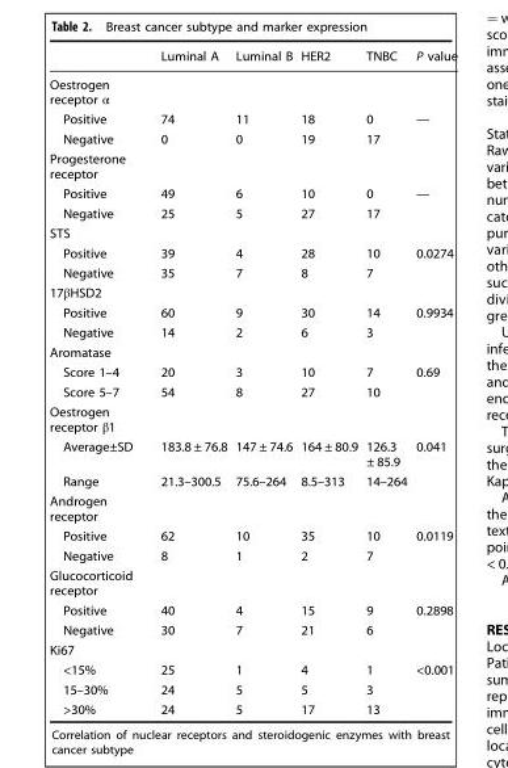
<table><thead><tr><td></td><td>Luminal A</td><td>Luminal B</td><td>HER2</td><td>TNBC</td><td>P value</td></tr></thead><tbody><tr><td colspan="6">Oestrogen receptor α</td></tr><tr><td>Positive</td><td>74</td><td>11</td><td>18</td><td>0</td><td>—</td></tr><tr><td>Negative</td><td>0</td><td>0</td><td>19</td><td>17</td><td></td></tr><tr><td colspan="6">Progesterone receptor</td></tr><tr><td>Positive</td><td>49</td><td>6</td><td>10</td><td>0</td><td>—</td></tr><tr><td>Negative</td><td>25</td><td>5</td><td>27</td><td>17</td><td></td></tr><tr><td colspan="6">STS</td></tr><tr><td>Positive</td><td>39</td><td>4</td><td>28</td><td>10</td><td>0.0274</td></tr><tr><td>Negative</td><td>35</td><td>7</td><td>8</td><td>7</td><td></td></tr><tr><td colspan="6">17βHSD2</td></tr><tr><td>Positive</td><td>60</td><td>9</td><td>30</td><td>14</td><td>0.9934</td></tr><tr><td>Negative</td><td>14</td><td>2</td><td>6</td><td>3</td><td></td></tr><tr><td colspan="6">Aromatase</td></tr><tr><td>Score 1–4</td><td>20</td><td>3</td><td>10</td><td>7</td><td>0.69</td></tr><tr><td>Score 5–7</td><td>54</td><td>8</td><td>27</td><td>10</td><td></td></tr><tr><td colspan="6">Oestrogen receptor β1</td></tr><tr><td>Average±SD</td><td>183.8 ± 76.8</td><td>147 ± 74.6</td><td>164 ± 80.9</td><td>126.3 ± 85.9</td><td>0.041</td></tr><tr><td>Range</td><td>21.3–300.5</td><td>75.6–264</td><td>8.5–313</td><td>14–264</td><td></td></tr><tr><td colspan="6">Androgen receptor</td></tr><tr><td>Positive</td><td>62</td><td>10</td><td>35</td><td>10</td><td>0.0119</td></tr><tr><td>Negative</td><td>8</td><td>1</td><td>2</td><td>7</td><td></td></tr><tr><td colspan="6">Glucocorticoid receptor</td></tr><tr><td>Positive</td><td>40</td><td>4</td><td>15</td><td>9</td><td>0.2898</td></tr><tr><td>Negative</td><td>30</td><td>7</td><td>21</td><td>6</td><td></td></tr><tr><td colspan="6">Ki67</td></tr><tr><td>&lt;15%</td><td>25</td><td>1</td><td>4</td><td>1</td><td>&lt;0.001</td></tr><tr><td>15–30%</td><td>24</td><td>5</td><td>5</td><td>3</td><td></td></tr><tr><td>&gt;30%</td><td>24</td><td>5</td><td>17</td><td>13</td><td></td></tr></tbody></table>